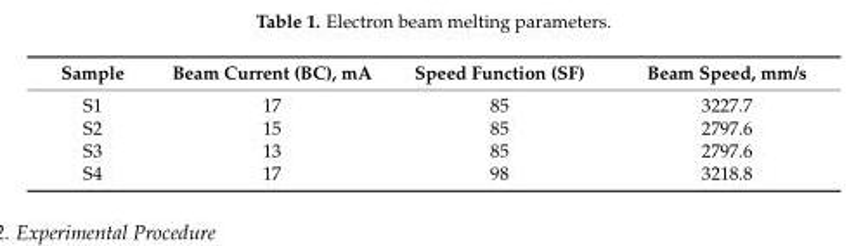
<table><thead><tr><td>Sample</td><td>Beam Current (BC), mA</td><td>Speed Function (SF)</td><td>Beam Speed, mm/s</td></tr></thead><tbody><tr><td>S1</td><td>17</td><td>85</td><td>3227.7</td></tr><tr><td>S2</td><td>15</td><td>85</td><td>2797.6</td></tr><tr><td>S3</td><td>13</td><td>85</td><td>2797.6</td></tr><tr><td>S4</td><td>17</td><td>98</td><td>3218.8</td></tr></tbody></table>